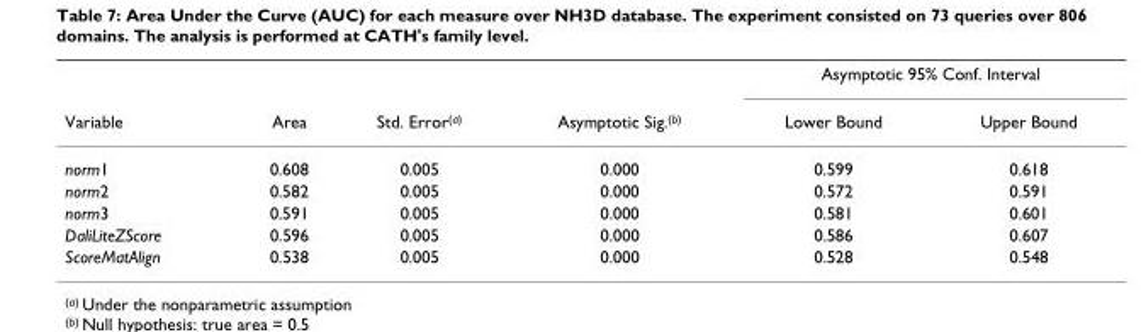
<table><thead><tr><td rowspan="2">Variable</td><td rowspan="2">Area</td><td rowspan="2">Std. Error<sup>(a)</sup></td><td rowspan="2">Asymptotic Sig.<sup>(b)</sup></td><td colspan="2">Asymptotic 95% Conf. Interval</td></tr><tr><td>Lower Bound</td><td>Upper Bound</td></tr></thead><tbody><tr><td>norm1</td><td>0.608</td><td>0.005</td><td>0.000</td><td>0.599</td><td>0.618</td></tr><tr><td>norm2</td><td>0.582</td><td>0.005</td><td>0.000</td><td>0.572</td><td>0.591</td></tr><tr><td>norm3</td><td>0.591</td><td>0.005</td><td>0.000</td><td>0.581</td><td>0.601</td></tr><tr><td>DaliLiteZScore</td><td>0.596</td><td>0.005</td><td>0.000</td><td>0.586</td><td>0.607</td></tr><tr><td>ScoreMatAlign</td><td>0.538</td><td>0.005</td><td>0.000</td><td>0.528</td><td>0.548</td></tr></tbody></table>